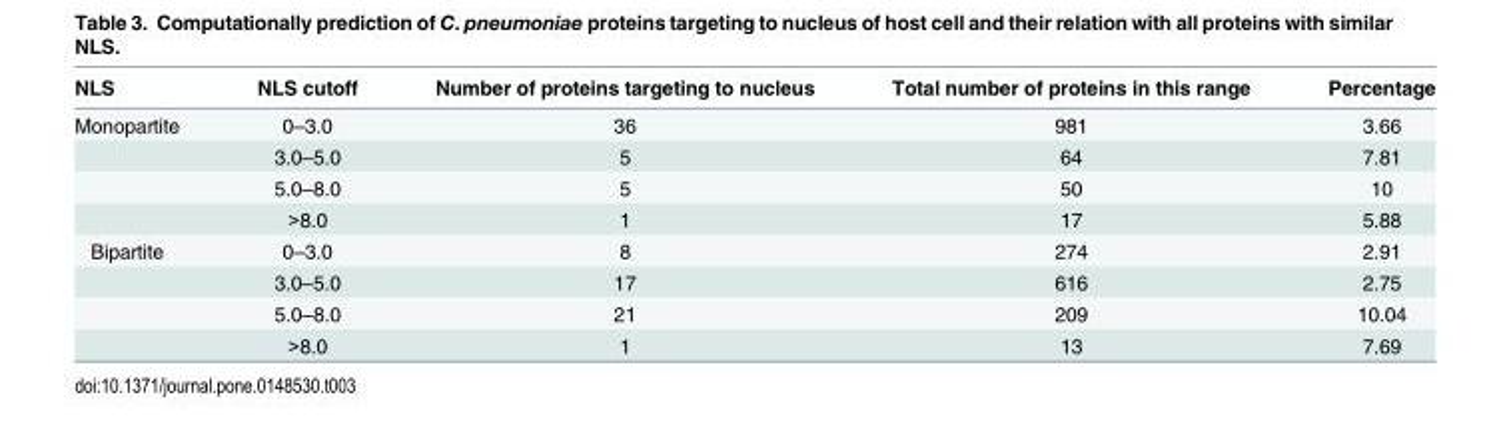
<table><thead><tr><td>NLS</td><td>NLS cutoff</td><td>Number of proteins targeting to nucleus</td><td>Total number of proteins in this range</td><td>Percentage</td></tr></thead><tbody><tr><td rowspan="4">Monopartite</td><td>0–3.0</td><td>36</td><td>981</td><td>3.66</td></tr><tr><td>3.0–5.0</td><td>5</td><td>64</td><td>7.81</td></tr><tr><td>5.0–8.0</td><td>5</td><td>50</td><td>10</td></tr><tr><td>&gt;8.0</td><td>1</td><td>17</td><td>5.88</td></tr><tr><td rowspan="4">Bipartite</td><td>0–3.0</td><td>8</td><td>274</td><td>2.91</td></tr><tr><td>3.0–5.0</td><td>17</td><td>616</td><td>2.75</td></tr><tr><td>5.0–8.0</td><td>21</td><td>209</td><td>10.04</td></tr><tr><td>&gt;8.0</td><td>1</td><td>13</td><td>7.69</td></tr></tbody></table>